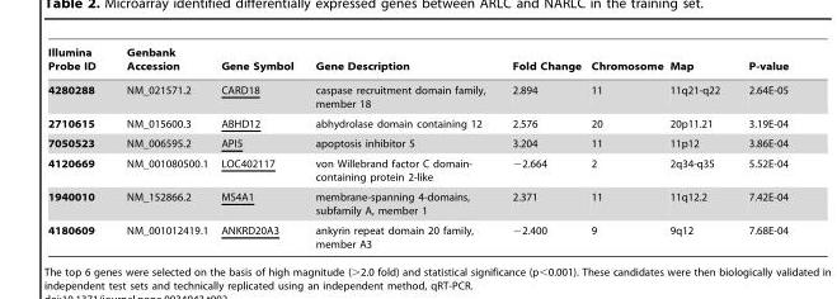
<table><thead><tr><td>Illumina Probe ID</td><td>Genbank Accession</td><td>Gene Symbol</td><td>Gene Description</td><td>Fold Change</td><td>Chromosome</td><td>Map</td><td>P-value</td></tr></thead><tbody><tr><td>4280288</td><td>NM_021571.2</td><td>CARD18</td><td>caspase recruitment domain family, member 18</td><td>2.894</td><td>11</td><td>11q21-q22</td><td>2.64E-05</td></tr><tr><td>2710615</td><td>NM_015600.3</td><td>ABHD12</td><td>abhydrolase domain containing 12</td><td>2.576</td><td>20</td><td>20p11.21</td><td>3.19E-04</td></tr><tr><td>7050523</td><td>NM_006595.2</td><td>API5</td><td>apoptosis inhibitor 5</td><td>3.204</td><td>11</td><td>11p12</td><td>3.86E-04</td></tr><tr><td>4120669</td><td>NM_001080500.1</td><td>LOC402117</td><td>von Willebrand factor C domain- containing protein 2-like</td><td>−2.664</td><td>2</td><td>2q34-q35</td><td>5.52E-04</td></tr><tr><td>1940010</td><td>NM_152866.2</td><td>MS4A1</td><td>membrane-spanning 4-domains, subfamily A, member 1</td><td>2.371</td><td>11</td><td>11q12.2</td><td>7.42E-04</td></tr><tr><td>4180609</td><td>NM_001012419.1</td><td>ANKRD20A3</td><td>ankyrin repeat domain 20 family, member A3</td><td>−2.400</td><td>9</td><td>9q12</td><td>7.68E-04</td></tr></tbody></table>